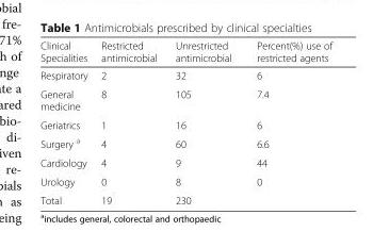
<table><thead><tr><td>Clinical Specialities</td><td>Restricted antimicrobial</td><td>Unrestricted antimicrobial</td><td>Percent(%) use of restricted agents</td></tr></thead><tbody><tr><td>Respiratory</td><td>2</td><td>32</td><td>6</td></tr><tr><td>General medicine</td><td>8</td><td>105</td><td>7.4</td></tr><tr><td>Geriatrics</td><td>1</td><td>16</td><td>6</td></tr><tr><td>Surgery <sup>a</sup></td><td>4</td><td>60</td><td>6.6</td></tr><tr><td>Cardiology</td><td>4</td><td>9</td><td>44</td></tr><tr><td>Urology</td><td>0</td><td>8</td><td>0</td></tr><tr><td>Total</td><td>19</td><td>230</td><td></td></tr></tbody></table>